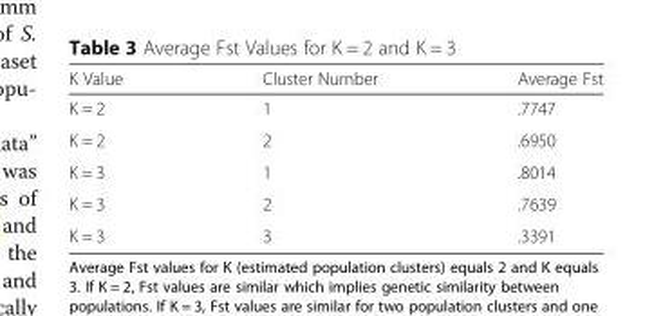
<table><thead><tr><td>K Value</td><td>Cluster Number</td><td>Average Fst</td></tr></thead><tbody><tr><td>K = 2</td><td>1</td><td>.7747</td></tr><tr><td>K = 2</td><td>2</td><td>.6950</td></tr><tr><td>K = 3</td><td>1</td><td>.8014</td></tr><tr><td>K = 3</td><td>2</td><td>.7639</td></tr><tr><td>K = 3</td><td>3</td><td>.3391</td></tr></tbody></table>